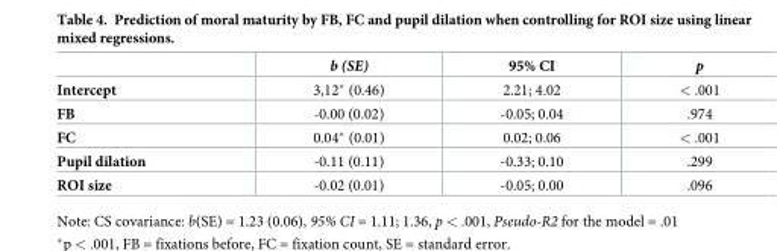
<table><thead><tr><td></td><td>b (SE)</td><td>95% CI</td><td>p</td></tr></thead><tbody><tr><td>Intercept</td><td>3,12* (0.46)</td><td>2.21; 4.02</td><td>&lt; .001</td></tr><tr><td>FB</td><td>-0.00 (0.02)</td><td>-0.05; 0.04</td><td>.974</td></tr><tr><td>FC</td><td>0.04* (0.01)</td><td>0.02; 0.06</td><td>&lt; .001</td></tr><tr><td>Pupil dilation</td><td>-0.11 (0.11)</td><td>-0.33; 0.10</td><td>.299</td></tr><tr><td>ROI size</td><td>-0.02 (0.01)</td><td>-0.05; 0.00</td><td>.096</td></tr></tbody></table>